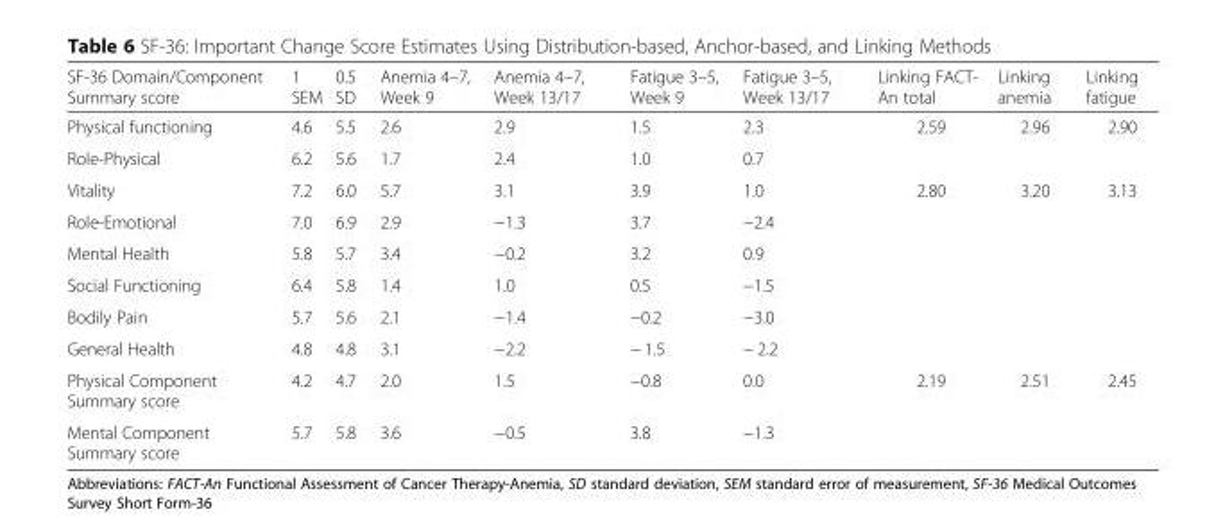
<table><thead><tr><td>SF-36 Domain/Component Summary score</td><td>1 SEM</td><td>0.5 SD</td><td>Anemia 4–7, Week 9</td><td>Anemia 4–7, Week 13/17</td><td>Fatigue 3–5, Week 9</td><td>Fatigue 3–5, Week 13/17</td><td>Linking FACT- An total</td><td>Linking anemia</td><td>Linking fatigue</td></tr></thead><tbody><tr><td>Physical functioning</td><td>4.6</td><td>5.5</td><td>2.6</td><td>2.9</td><td>1.5</td><td>2.3</td><td>2.59</td><td>2.96</td><td>2.90</td></tr><tr><td>Role-Physical</td><td>6.2</td><td>5.6</td><td>1.7</td><td>2.4</td><td>1.0</td><td>0.7</td><td></td><td></td><td></td></tr><tr><td>Vitality</td><td>7.2</td><td>6.0</td><td>5.7</td><td>3.1</td><td>3.9</td><td>1.0</td><td>2.80</td><td>3.20</td><td>3.13</td></tr><tr><td>Role-Emotional</td><td>7.0</td><td>6.9</td><td>2.9</td><td>−1.3</td><td>3.7</td><td>−2.4</td><td></td><td></td><td></td></tr><tr><td>Mental Health</td><td>5.8</td><td>5.7</td><td>3.4</td><td>−0.2</td><td>3.2</td><td>0.9</td><td></td><td></td><td></td></tr><tr><td>Social Functioning</td><td>6.4</td><td>5.8</td><td>1.4</td><td>1.0</td><td>0.5</td><td>−1.5</td><td></td><td></td><td></td></tr><tr><td>Bodily Pain</td><td>5.7</td><td>5.6</td><td>2.1</td><td>−1.4</td><td>−0.2</td><td>−3.0</td><td></td><td></td><td></td></tr><tr><td>General Health</td><td>4.8</td><td>4.8</td><td>3.1</td><td>−2.2</td><td>− 1.5</td><td>− 2.2</td><td></td><td></td><td></td></tr><tr><td>Physical Component Summary score</td><td>4.2</td><td>4.7</td><td>2.0</td><td>1.5</td><td>−0.8</td><td>0.0</td><td>2.19</td><td>2.51</td><td>2.45</td></tr><tr><td>Mental Component Summary score</td><td>5.7</td><td>5.8</td><td>3.6</td><td>−0.5</td><td>3.8</td><td>−1.3</td><td></td><td></td><td></td></tr></tbody></table>